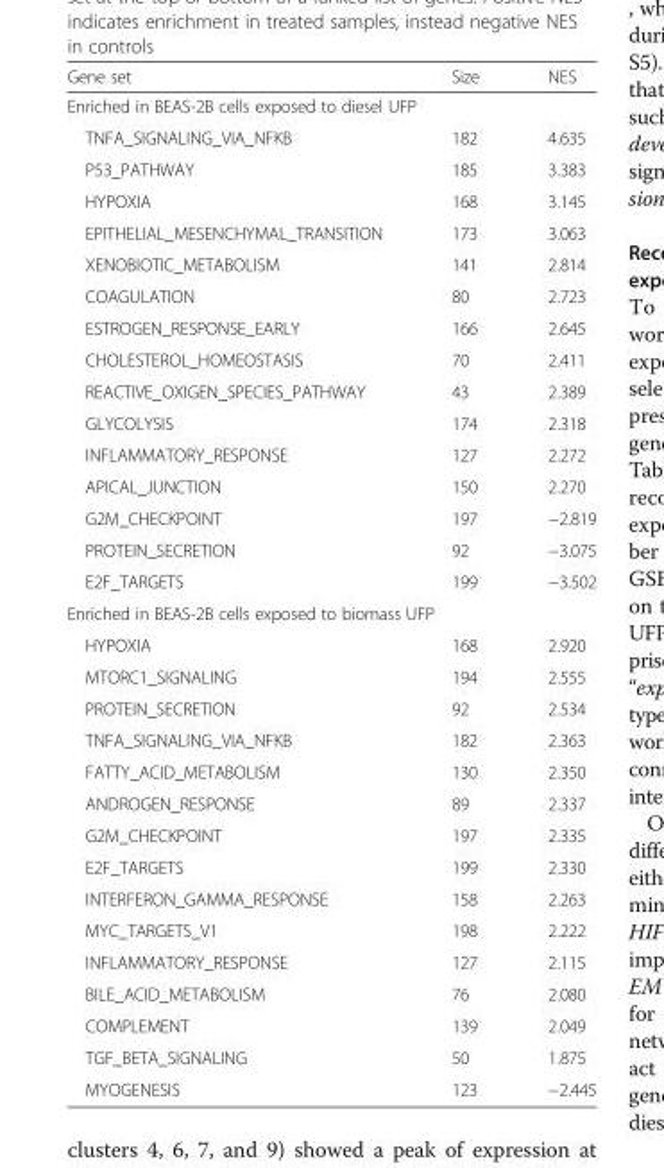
<table><thead><tr><td>Gene set</td><td>Size</td><td>NES</td></tr></thead><tbody><tr><td colspan="3">Enriched in BEAS-2B cells exposed to diesel UFP</td></tr><tr><td>TNFA_SIGNALING_VIA_NFKB</td><td>182</td><td>4.635</td></tr><tr><td>P53_PATHWAY</td><td>185</td><td>3.383</td></tr><tr><td>HYPOXIA</td><td>168</td><td>3.145</td></tr><tr><td>EPITHELIAL_MESENCHYMAL_TRANSITION</td><td>173</td><td>3.063</td></tr><tr><td>XENOBIOTIC_METABOLISM</td><td>141</td><td>2.814</td></tr><tr><td>COAGULATION</td><td>80</td><td>2.723</td></tr><tr><td>ESTROGEN_RESPONSE_EARLY</td><td>166</td><td>2.645</td></tr><tr><td>CHOLESTEROL_HOMEOSTASIS</td><td>70</td><td>2.411</td></tr><tr><td>REACTIVE_OXIGEN_SPECIES_PATHWAY</td><td>43</td><td>2.389</td></tr><tr><td>GLYCOLYSIS</td><td>174</td><td>2.318</td></tr><tr><td>INFLAMMATORY_RESPONSE</td><td>127</td><td>2.272</td></tr><tr><td>APICAL_JUNCTION</td><td>150</td><td>2.270</td></tr><tr><td>G2M_CHECKPOINT</td><td>197</td><td>−2.819</td></tr><tr><td>PROTEIN_SECRETION</td><td>92</td><td>−3.075</td></tr><tr><td>E2F_TARGETS</td><td>199</td><td>−3.502</td></tr><tr><td colspan="3">Enriched in BEAS-2B cells exposed to biomass UFP</td></tr><tr><td>HYPOXIA</td><td>168</td><td>2.920</td></tr><tr><td>MTORC1_SIGNALING</td><td>194</td><td>2.555</td></tr><tr><td>PROTEIN_SECRETION</td><td>92</td><td>2.534</td></tr><tr><td>TNFA_SIGNALING_VIA_NFKB</td><td>182</td><td>2.363</td></tr><tr><td>FATTY_ACID_METABOLISM</td><td>130</td><td>2.350</td></tr><tr><td>ANDROGEN_RESPONSE</td><td>89</td><td>2.337</td></tr><tr><td>G2M_CHECKPOINT</td><td>197</td><td>2.335</td></tr><tr><td>E2F_TARGETS</td><td>199</td><td>2.330</td></tr><tr><td>INTERFERON_GAMMA_RESPONSE</td><td>158</td><td>2.263</td></tr><tr><td>MYC_TARGETS_V1</td><td>198</td><td>2.222</td></tr><tr><td>INFLAMMATORY_RESPONSE</td><td>127</td><td>2.115</td></tr><tr><td>BILE_ACID_METABOLISM</td><td>76</td><td>2.080</td></tr><tr><td>COMPLEMENT</td><td>139</td><td>2.049</td></tr><tr><td>TGF_BETA_SIGNALING</td><td>50</td><td>1.875</td></tr><tr><td>MYOGENESIS</td><td>123</td><td>−2.445</td></tr></tbody></table>